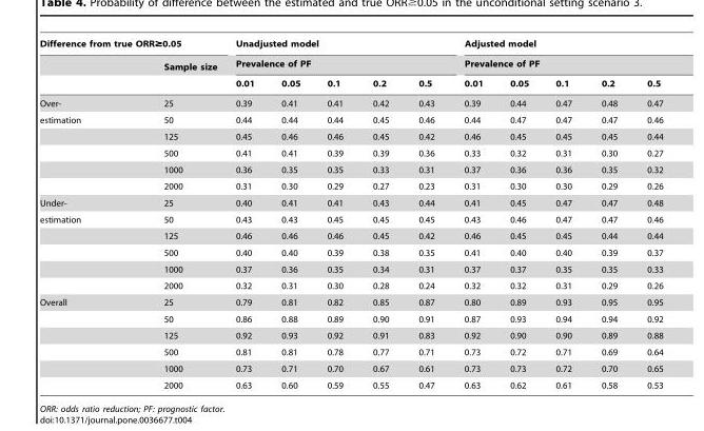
<table><thead><tr><td colspan="2">Difference from true ORR≥0.05</td><td rowspan="2" colspan="5">Unadjusted model Prevalence of PF</td><td rowspan="2" colspan="5">Adjusted model Prevalence of PF</td></tr><tr><td rowspan="2"></td><td rowspan="2">Sample size</td></tr><tr><td>0.01</td><td>0.05</td><td>0.1</td><td>0.2</td><td>0.5</td><td>0.01</td><td>0.05</td><td>0.1</td><td>0.2</td><td>0.5</td></tr></thead><tbody><tr><td>Over-</td><td>25</td><td>0.39</td><td>0.41</td><td>0.41</td><td>0.42</td><td>0.43</td><td>0.39</td><td>0.44</td><td>0.47</td><td>0.48</td><td>0.47</td></tr><tr><td rowspan="5">estimation</td><td>50</td><td>0.44</td><td>0.44</td><td>0.44</td><td>0.45</td><td>0.46</td><td>0.44</td><td>0.47</td><td>0.47</td><td>0.47</td><td>0.46</td></tr><tr><td>125</td><td>0.45</td><td>0.46</td><td>0.46</td><td>0.45</td><td>0.42</td><td>0.46</td><td>0.45</td><td>0.45</td><td>0.45</td><td>0.44</td></tr><tr><td>500</td><td>0.41</td><td>0.41</td><td>0.39</td><td>0.39</td><td>0.36</td><td>0.33</td><td>0.32</td><td>0.31</td><td>0.30</td><td>0.27</td></tr><tr><td>1000</td><td>0.36</td><td>0.35</td><td>0.35</td><td>0.33</td><td>0.31</td><td>0.37</td><td>0.36</td><td>0.36</td><td>0.35</td><td>0.32</td></tr><tr><td>2000</td><td>0.31</td><td>0.30</td><td>0.29</td><td>0.27</td><td>0.23</td><td>0.31</td><td>0.30</td><td>0.30</td><td>0.29</td><td>0.26</td></tr><tr><td>Under-</td><td>25</td><td>0.40</td><td>0.41</td><td>0.41</td><td>0.43</td><td>0.44</td><td>0.41</td><td>0.45</td><td>0.47</td><td>0.47</td><td>0.48</td></tr><tr><td rowspan="5">estimation</td><td>50</td><td>0.43</td><td>0.43</td><td>0.45</td><td>0.45</td><td>0.45</td><td>0.43</td><td>0.46</td><td>0.47</td><td>0.47</td><td>0.46</td></tr><tr><td>125</td><td>0.46</td><td>0.46</td><td>0.46</td><td>0.45</td><td>0.42</td><td>0.46</td><td>0.45</td><td>0.45</td><td>0.44</td><td>0.44</td></tr><tr><td>500</td><td>0.40</td><td>0.40</td><td>0.39</td><td>0.38</td><td>0.35</td><td>0.41</td><td>0.40</td><td>0.40</td><td>0.39</td><td>0.37</td></tr><tr><td>1000</td><td>0.37</td><td>0.36</td><td>0.35</td><td>0.34</td><td>0.31</td><td>0.37</td><td>0.37</td><td>0.35</td><td>0.35</td><td>0.33</td></tr><tr><td>2000</td><td>0.32</td><td>0.31</td><td>0.30</td><td>0.28</td><td>0.24</td><td>0.32</td><td>0.32</td><td>0.31</td><td>0.29</td><td>0.26</td></tr><tr><td rowspan="6">Overall</td><td>25</td><td>0.79</td><td>0.81</td><td>0.82</td><td>0.85</td><td>0.87</td><td>0.80</td><td>0.89</td><td>0.93</td><td>0.95</td><td>0.95</td></tr><tr><td>50</td><td>0.86</td><td>0.88</td><td>0.89</td><td>0.90</td><td>0.91</td><td>0.87</td><td>0.93</td><td>0.94</td><td>0.94</td><td>0.92</td></tr><tr><td>125</td><td>0.92</td><td>0.93</td><td>0.92</td><td>0.91</td><td>0.83</td><td>0.92</td><td>0.90</td><td>0.90</td><td>0.89</td><td>0.88</td></tr><tr><td>500</td><td>0.81</td><td>0.81</td><td>0.78</td><td>0.77</td><td>0.71</td><td>0.73</td><td>0.72</td><td>0.71</td><td>0.69</td><td>0.64</td></tr><tr><td>1000</td><td>0.73</td><td>0.71</td><td>0.70</td><td>0.67</td><td>0.61</td><td>0.73</td><td>0.73</td><td>0.72</td><td>0.70</td><td>0.65</td></tr><tr><td>2000</td><td>0.63</td><td>0.60</td><td>0.59</td><td>0.55</td><td>0.47</td><td>0.63</td><td>0.62</td><td>0.61</td><td>0.58</td><td>0.53</td></tr></tbody></table>